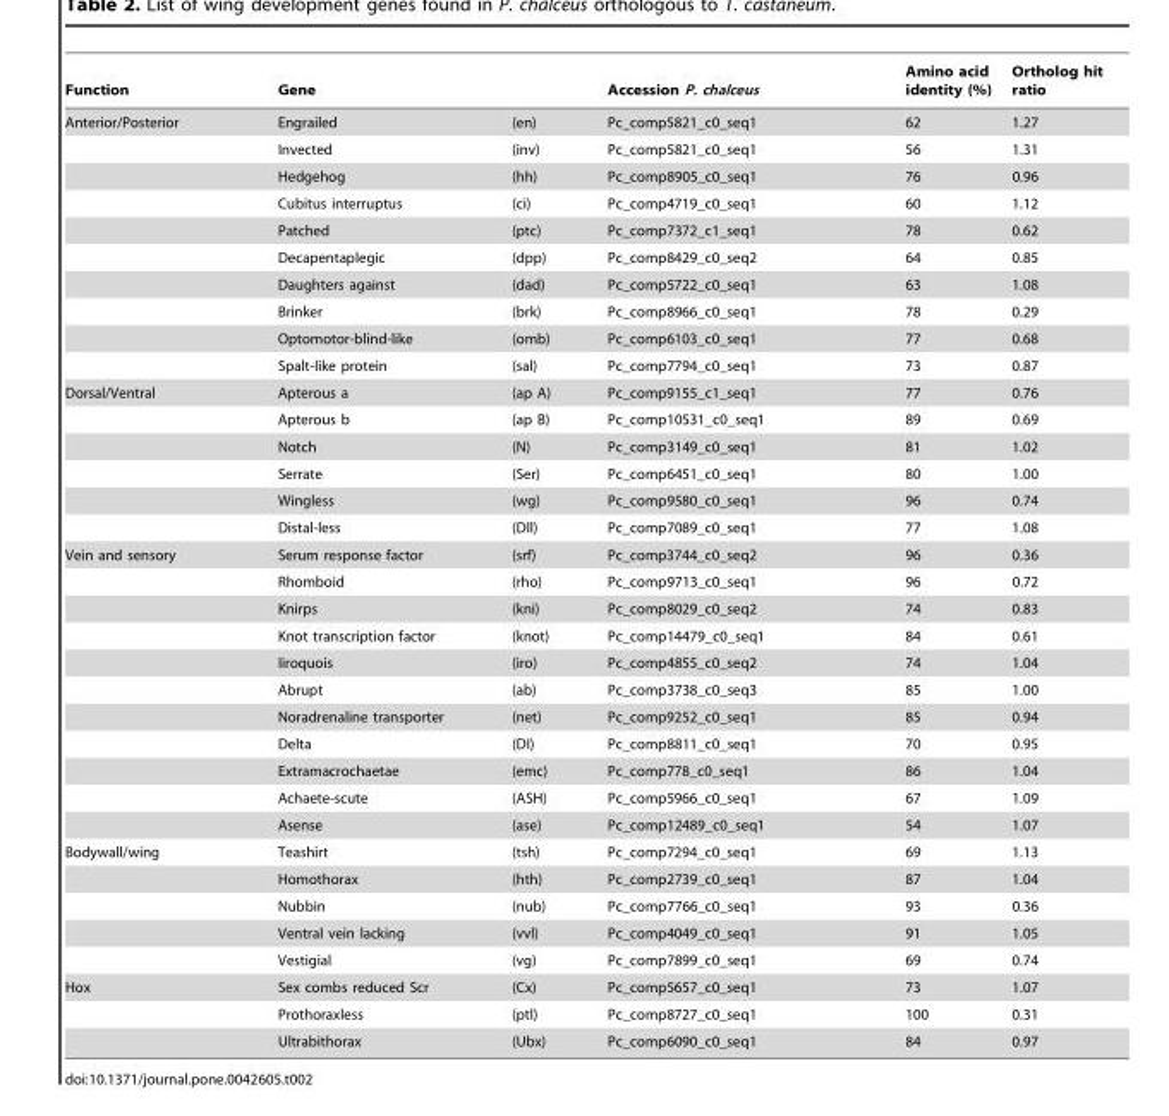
<table><thead><tr><td>Function</td><td>Gene</td><td></td><td>Accession P. chalceus</td><td>Amino acid identity (%)</td><td>Ortholog hit ratio</td></tr></thead><tbody><tr><td rowspan="10">Anterior/Posterior</td><td>Engrailed</td><td>(en)</td><td>Pc_comp5821_c0_seq1</td><td>62</td><td>1.27</td></tr><tr><td>Invected</td><td>(inv)</td><td>Pc_comp5821_c0_seq1</td><td>56</td><td>1.31</td></tr><tr><td>Hedgehog</td><td>(hh)</td><td>Pc_comp8905_c0_seq1</td><td>76</td><td>0.96</td></tr><tr><td>Cubitus interruptus</td><td>(ci)</td><td>Pc_comp4719_c0_seq1</td><td>60</td><td>1.12</td></tr><tr><td>Patched</td><td>(ptc)</td><td>Pc_comp7372_c1_seq1</td><td>78</td><td>0.62</td></tr><tr><td>Decapentaplegic</td><td>(dpp)</td><td>Pc_comp8429_c0_seq2</td><td>64</td><td>0.85</td></tr><tr><td>Daughters against</td><td>(dad)</td><td>Pc_comp5722_c0_seq1</td><td>63</td><td>1.08</td></tr><tr><td>Brinker</td><td>(brk)</td><td>Pc_comp8966_c0_seq1</td><td>78</td><td>0.29</td></tr><tr><td>Optomotor-blind-like</td><td>(omb)</td><td>Pc_comp6103_c0_seq1</td><td>77</td><td>0.68</td></tr><tr><td>Spalt-like protein</td><td>(sal)</td><td>Pc_comp7794_c0_seq1</td><td>73</td><td>0.87</td></tr><tr><td rowspan="6">Dorsal/Ventral</td><td>Apterous a</td><td>(ap A)</td><td>Pc_comp9155_c1_seq1</td><td>77</td><td>0.76</td></tr><tr><td>Apterous b</td><td>(ap B)</td><td>Pc_comp10531_c0_seq1</td><td>89</td><td>0.69</td></tr><tr><td>Notch</td><td>(N)</td><td>Pc_comp3149_c0_seq1</td><td>81</td><td>1.02</td></tr><tr><td>Serrate</td><td>(Ser)</td><td>Pc_comp6451_c0_seq1</td><td>80</td><td>1.00</td></tr><tr><td>Wingless</td><td>(wg)</td><td>Pc_comp9580_c0_seq1</td><td>96</td><td>0.74</td></tr><tr><td>Distal-less</td><td>(Dll)</td><td>Pc_comp7089_c0_seq1</td><td>77</td><td>1.08</td></tr><tr><td rowspan="11">Vein and sensory</td><td>Serum response factor</td><td>(srf)</td><td>Pc_comp3744_c0_seq2</td><td>96</td><td>0.36</td></tr><tr><td>Rhomboid</td><td>(rho)</td><td>Pc_comp9713_c0_seq1</td><td>96</td><td>0.72</td></tr><tr><td>Knirps</td><td>(kni)</td><td>Pc_comp8029_c0_seq2</td><td>74</td><td>0.83</td></tr><tr><td>Knot transcription factor</td><td>(knot)</td><td>Pc_comp14479_c0_seq1</td><td>84</td><td>0.61</td></tr><tr><td>Iiroquois</td><td>(iro)</td><td>Pc_comp4855_c0_seq2</td><td>74</td><td>1.04</td></tr><tr><td>Abrupt</td><td>(ab)</td><td>Pc_comp3738_c0_seq3</td><td>85</td><td>1.00</td></tr><tr><td>Noradrenaline transporter</td><td>(net)</td><td>Pc_comp9252_c0_seq1</td><td>85</td><td>0.94</td></tr><tr><td>Delta</td><td>(DI)</td><td>Pc_comp8811_c0_seq1</td><td>70</td><td>0.95</td></tr><tr><td>Extramacrochaetae</td><td>(emc)</td><td>Pc_comp778_c0_seq1</td><td>86</td><td>1.04</td></tr><tr><td>Achaete-scute</td><td>(ASH)</td><td>Pc_comp5966_c0_seq1</td><td>67</td><td>1.09</td></tr><tr><td>Asense</td><td>(ase)</td><td>Pc_comp12489_c0_seq1</td><td>54</td><td>1.07</td></tr><tr><td rowspan="5">Bodywall/wing</td><td>Teashirt</td><td>(tsh)</td><td>Pc_comp7294_c0_seq1</td><td>69</td><td>1.13</td></tr><tr><td>Homothorax</td><td>(hth)</td><td>Pc_comp2739_c0_seq1</td><td>87</td><td>1.04</td></tr><tr><td>Nubbin</td><td>(nub)</td><td>Pc_comp7766_c0_seq1</td><td>93</td><td>0.36</td></tr><tr><td>Ventral vein lacking</td><td>(vvl)</td><td>Pc_comp4049_c0_seq1</td><td>91</td><td>1.05</td></tr><tr><td>Vestigial</td><td>(vg)</td><td>Pc_comp7899_c0_seq1</td><td>69</td><td>0.74</td></tr><tr><td rowspan="3">Hox</td><td>Sex combs reduced Scr</td><td>(Cx)</td><td>Pc_comp5657_c0_seq1</td><td>73</td><td>1.07</td></tr><tr><td>Prothoraxless</td><td>(ptl)</td><td>Pc_comp8727_c0_seq1</td><td>100</td><td>0.31</td></tr><tr><td>Ultrabithorax</td><td>(Ubx)</td><td>Pc_comp6090_c0_seq1</td><td>84</td><td>0.97</td></tr></tbody></table>